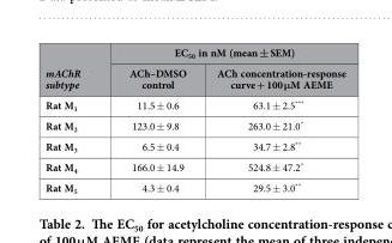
<table><thead><tr><td rowspan="2">mAChR subtype</td><td colspan="2">EC<sub>50</sub> in nM (mean ± SEM)</td></tr><tr><td>ACh–DMSO control</td><td>ACh concentration-response curve + 100 μM AEME</td></tr></thead><tbody><tr><td>Rat M<sub>1</sub></td><td>11.5 ± 0.6</td><td>63.1 ± 2.5***</td></tr><tr><td>Rat M<sub>2</sub></td><td>123.0 ± 9.8</td><td>263.0 ± 21.0*</td></tr><tr><td>Rat M<sub>3</sub></td><td>6.5 ± 0.4</td><td>34.7 ± 2.8**</td></tr><tr><td>Rat M<sub>4</sub></td><td>166.0 ± 14.9</td><td>524.8 ± 47.2*</td></tr><tr><td>Rat M<sub>5</sub></td><td>4.3 ± 0.4</td><td>29.5 ± 3.0**</td></tr></tbody></table>